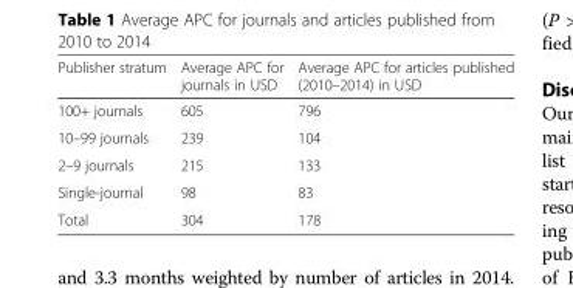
<table><thead><tr><td>Publisher stratum</td><td>Average APC for journals in USD</td><td>Average APC for articles published (2010–2014) in USD</td></tr></thead><tbody><tr><td>100+ journals</td><td>605</td><td>796</td></tr><tr><td>10–99 journals</td><td>239</td><td>104</td></tr><tr><td>2–9 journals</td><td>215</td><td>133</td></tr><tr><td>Single-journal</td><td>98</td><td>83</td></tr><tr><td>Total</td><td>304</td><td>178</td></tr></tbody></table>